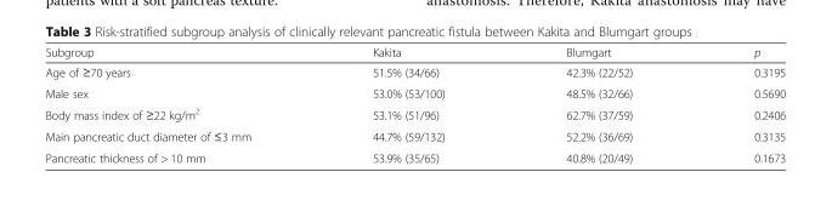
<table><thead><tr><td>Subgroup</td><td>Kakita</td><td>Blumgart</td><td>p</td></tr></thead><tbody><tr><td>Age of ≥70 years</td><td>51.5% (34/66)</td><td>42.3% (22/52)</td><td>0.3195</td></tr><tr><td>Male sex</td><td>53.0% (53/100)</td><td>48.5% (32/66)</td><td>0.5690</td></tr><tr><td>Body mass index of ≥22 kg/m<sup>2</sup></td><td>53.1% (51/96)</td><td>62.7% (37/59)</td><td>0.2406</td></tr><tr><td>Main pancreatic duct diameter of ≤3 mm</td><td>44.7% (59/132)</td><td>52.2% (36/69)</td><td>0.3135</td></tr><tr><td>Pancreatic thickness of &gt; 10 mm</td><td>53.9% (35/65)</td><td>40.8% (20/49)</td><td>0.1673</td></tr></tbody></table>